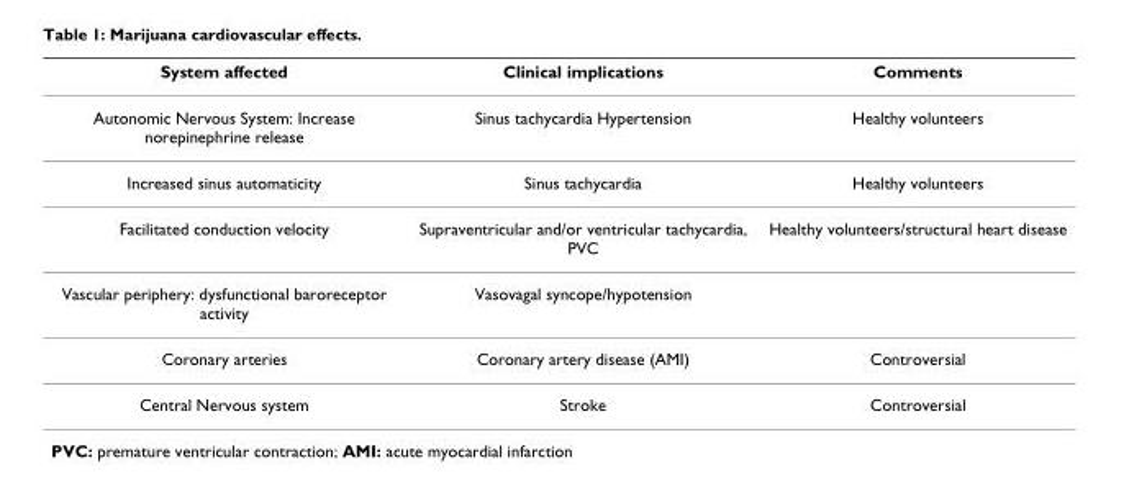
<table><thead><tr><td>System affected</td><td>Clinical implications</td><td>Comments</td></tr></thead><tbody><tr><td>Autonomic Nervous System: Increase norepinephrine release</td><td>Sinus tachycardia Hypertension</td><td>Healthy volunteers</td></tr><tr><td>Increased sinus automaticity</td><td>Sinus tachycardia</td><td>Healthy volunteers</td></tr><tr><td>Facilitated conduction velocity</td><td>Supraventricular and/or ventricular tachycardia, PVC</td><td>Healthy volunteers/structural heart disease</td></tr><tr><td>Vascular periphery: dysfunctional baroreceptor activity</td><td>Vasovagal syncope/hypotension</td><td></td></tr><tr><td>Coronary arteries</td><td>Coronary artery disease (AMI)</td><td>Controversial</td></tr><tr><td>Central Nervous system</td><td>Stroke</td><td>Controversial</td></tr></tbody></table>